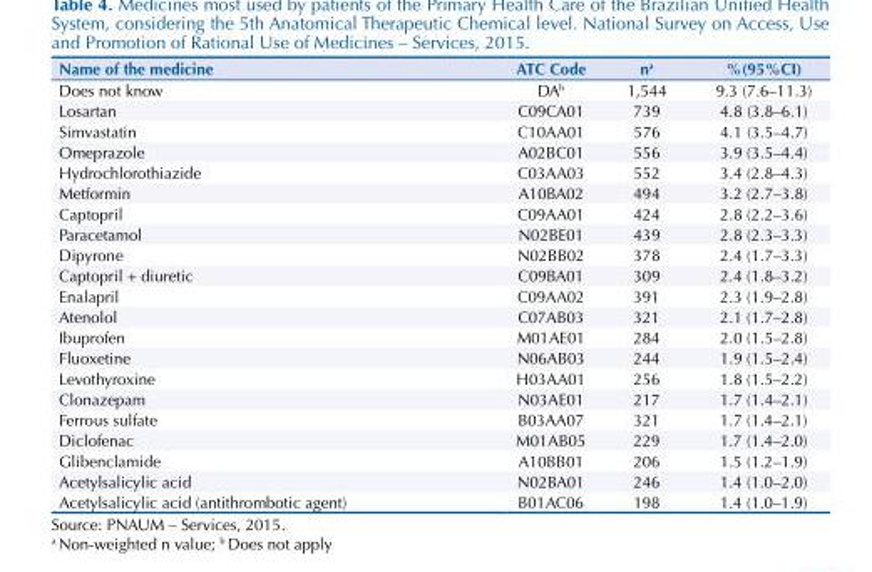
<table><thead><tr><td>Name of the medicine</td><td>ATC Code</td><td>n<sup>a</sup></td><td>%(95%CI)</td></tr></thead><tbody><tr><td>Does not know</td><td>DA<sup>b</sup></td><td>1,544</td><td>9.3 (7.6–11.3)</td></tr><tr><td>Losartan</td><td>C09CA01</td><td>739</td><td>4.8 (3.8–6.1)</td></tr><tr><td>Simvastatin</td><td>C10AA01</td><td>576</td><td>4.1 (3.5–4.7)</td></tr><tr><td>Omeprazole</td><td>A02BC01</td><td>556</td><td>3.9 (3.5–4.4)</td></tr><tr><td>Hydrochlorothiazide</td><td>C03AA03</td><td>552</td><td>3.4 (2.8–4.3)</td></tr><tr><td>Metformin</td><td>A10BA02</td><td>494</td><td>3.2 (2.7–3.8)</td></tr><tr><td>Captopril</td><td>C09AA01</td><td>424</td><td>2.8 (2.2–3.6)</td></tr><tr><td>Paracetamol</td><td>N02BE01</td><td>439</td><td>2.8 (2.3–3.3)</td></tr><tr><td>Dipyrone</td><td>N02BB02</td><td>378</td><td>2.4 (1.7–3.3)</td></tr><tr><td>Captopril + diuretic</td><td>C09BA01</td><td>309</td><td>2.4 (1.8–3.2)</td></tr><tr><td>Enalapril</td><td>C09AA02</td><td>391</td><td>2.3 (1.9–2.8)</td></tr><tr><td>Atenolol</td><td>C07AB03</td><td>321</td><td>2.1 (1.7–2.8)</td></tr><tr><td>Ibuprofen</td><td>M01AE01</td><td>284</td><td>2.0 (1.5–2.8)</td></tr><tr><td>Fluoxetine</td><td>N06AB03</td><td>244</td><td>1.9 (1.5–2.4)</td></tr><tr><td>Levothyroxine</td><td>H03AA01</td><td>256</td><td>1.8 (1.5–2.2)</td></tr><tr><td>Clonazepam</td><td>N03AE01</td><td>217</td><td>1.7 (1.4–2.1)</td></tr><tr><td>Ferrous sulfate</td><td>B03AA07</td><td>321</td><td>1.7 (1.4–2.1)</td></tr><tr><td>Diclofenac</td><td>M01AB05</td><td>229</td><td>1.7 (1.4–2.0)</td></tr><tr><td>Glibenclamide</td><td>A10BB01</td><td>206</td><td>1.5 (1.2–1.9)</td></tr><tr><td>Acetylsalicylic acid</td><td>N02BA01</td><td>246</td><td>1.4 (1.0–2.0)</td></tr><tr><td>Acetylsalicylic acid (antithrombotic agent)</td><td>B01AC06</td><td>198</td><td>1.4 (1.0–1.9)</td></tr></tbody></table>